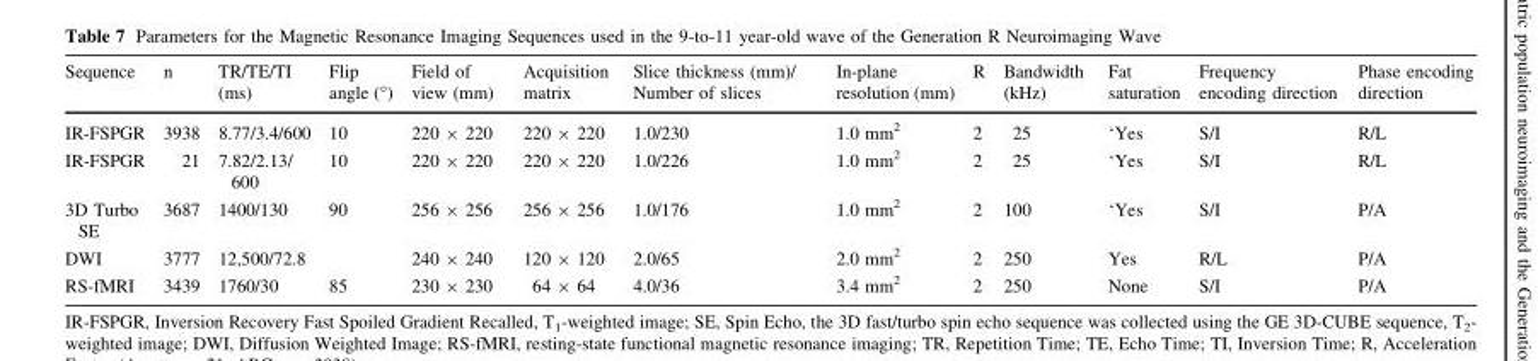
<table><thead><tr><td>Sequence</td><td>n</td><td>TR/TE/TI (ms)</td><td>Flip angle (°)</td><td>Field of view (mm)</td><td>Acquisition matrix</td><td>Slice thickness (mm)/ Number of slices</td><td>In-plane resolution (mm)</td><td>R</td><td>Bandwidth (kHz)</td><td>Fat saturation</td><td>Frequency encoding direction</td><td>Phase encoding direction</td></tr></thead><tbody><tr><td>IR-FSPGR</td><td>3938</td><td>8.77/3.4/600</td><td>10</td><td>220 × 220</td><td>220 × 220</td><td>1.0/230</td><td>1.0 mm<sup>2</sup></td><td>2</td><td>25</td><td>‘Yes</td><td>S/I</td><td>R/L</td></tr><tr><td>IR-FSPGR</td><td>21</td><td>7.82/2.13/ 600</td><td>10</td><td>220 × 220</td><td>220 × 220</td><td>1.0/226</td><td>1.0 mm<sup>2</sup></td><td>2</td><td>25</td><td>‘Yes</td><td>S/I</td><td>R/L</td></tr><tr><td>3D Turbo SE</td><td>3687</td><td>1400/130</td><td>90</td><td>256 × 256</td><td>256 × 256</td><td>1.0/176</td><td>1.0 mm<sup>2</sup></td><td>2</td><td>100</td><td>‘Yes</td><td>S/I</td><td>P/A</td></tr><tr><td>DWI</td><td>3777</td><td>12,500/72.8</td><td></td><td>240 × 240</td><td>120 × 120</td><td>2.0/65</td><td>2.0 mm<sup>2</sup></td><td>2</td><td>250</td><td>Yes</td><td>R/L</td><td>P/A</td></tr><tr><td>RS-fMRI</td><td>3439</td><td>1760/30</td><td>85</td><td>230 × 230</td><td>64 × 64</td><td>4.0/36</td><td>3.4 mm<sup>2</sup></td><td>2</td><td>250</td><td>None</td><td>S/I</td><td>P/A</td></tr></tbody></table>